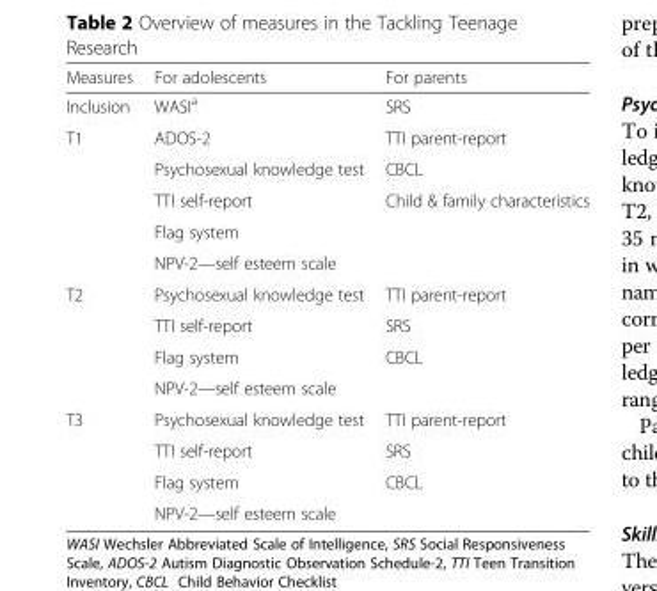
<table><thead><tr><td>Measures</td><td>For adolescents</td><td>For parents</td></tr></thead><tbody><tr><td>Inclusion</td><td>WASI<sup>a</sup></td><td>SRS</td></tr><tr><td rowspan="5">T1</td><td>ADOS-2</td><td>TTI parent-report</td></tr><tr><td>Psychosexual knowledge test</td><td>CBCL</td></tr><tr><td>TTI self-report</td><td>Child &amp; family characteristics</td></tr><tr><td>Flag system</td><td></td></tr><tr><td>NPV-2—self esteem scale</td><td></td></tr><tr><td rowspan="4">T2</td><td>Psychosexual knowledge test</td><td>TTI parent-report</td></tr><tr><td>TTI self-report</td><td>SRS</td></tr><tr><td>Flag system</td><td>CBCL</td></tr><tr><td>NPV-2—self esteem scale</td><td></td></tr><tr><td rowspan="4">T3</td><td>Psychosexual knowledge test</td><td>TTI parent-report</td></tr><tr><td>TTI self-report</td><td>SRS</td></tr><tr><td>Flag system</td><td>CBCL</td></tr><tr><td>NPV-2—self esteem scale</td><td></td></tr></tbody></table>